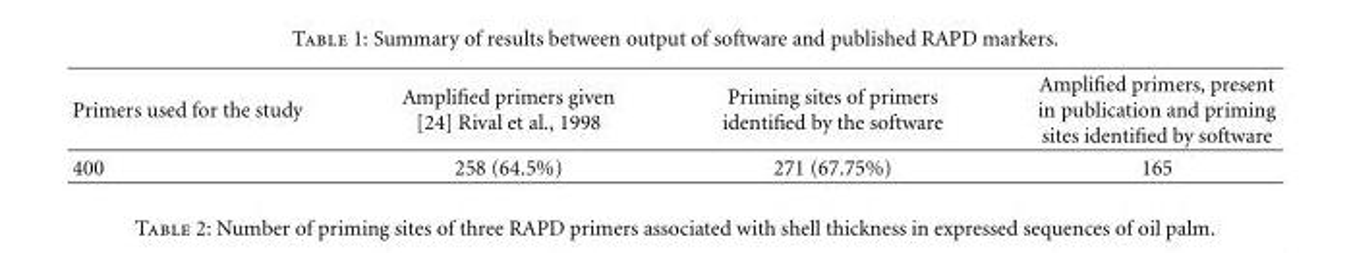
<table><thead><tr><td>Primers used for the study</td><td>Amplified primers given [24] Rival et al., 1998</td><td>Priming sites of primers identified by the software</td><td>Amplified primers, present in publication and priming sites identified by software</td></tr></thead><tbody><tr><td>400</td><td>258 (64.5%)</td><td>271 (67.75%)</td><td>165</td></tr></tbody></table>